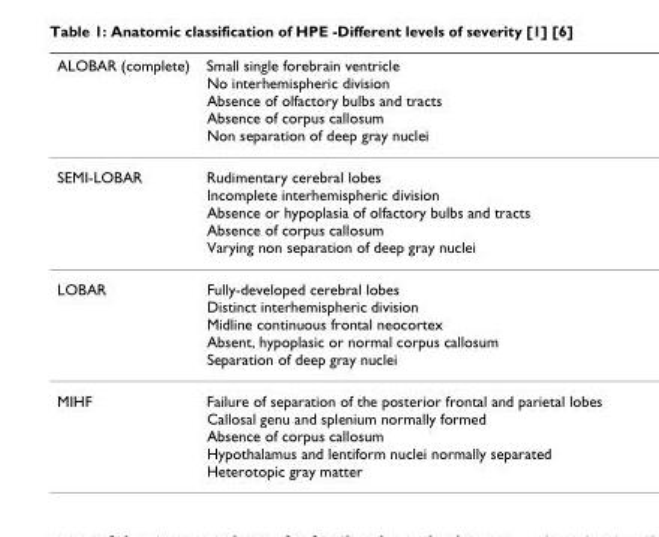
<table><thead><tr><td>ALOBAR (complete)</td><td>Small single forebrain ventricle No interhemispheric division Absence of olfactory bulbs and tracts Absence of corpus callosum Non separation of deep gray nuclei</td></tr></thead><tbody><tr><td>SEMI-LOBAR</td><td>Rudimentary cerebral lobes Incomplete interhemispheric division Absence or hypoplasia of olfactory bulbs and tracts Absence of corpus callosum Varying non separation of deep gray nuclei</td></tr><tr><td>LOBAR</td><td>Fully-developed cerebral lobes Distinct interhemispheric division Midline continuous frontal neocortex Absent, hypoplasic or normal corpus callosum Separation of deep gray nuclei</td></tr><tr><td>MIHF</td><td>Failure of separation of the posterior frontal and parietal lobes Callosal genu and splenium normally formed Absence of corpus callosum Hypothalamus and lentiform nuclei normally separated Heterotopic gray matter</td></tr></tbody></table>